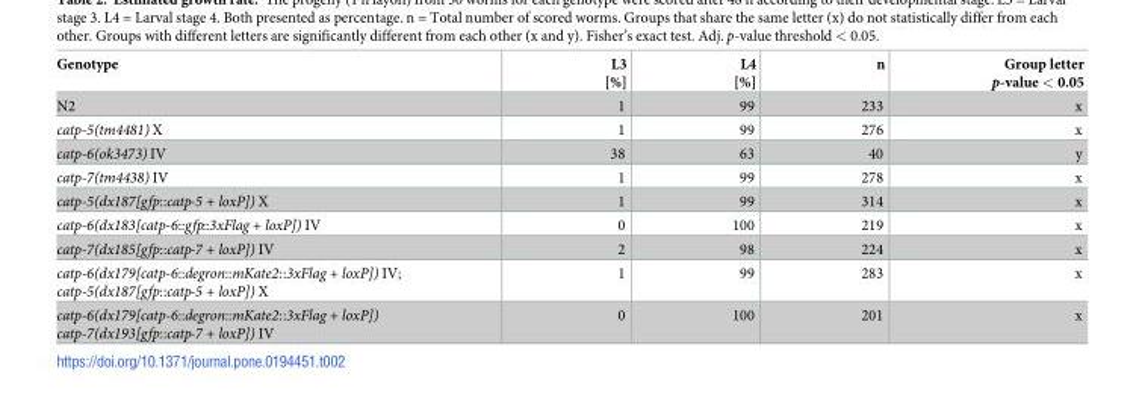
<table><thead><tr><td>Genotype</td><td>L3 [%]</td><td>L4 [%]</td><td>n</td><td>Group letter p-value &lt; 0.05</td></tr></thead><tbody><tr><td>N2</td><td>1</td><td>99</td><td>233</td><td>x</td></tr><tr><td>catp-5(tm4481) X</td><td>1</td><td>99</td><td>276</td><td>x</td></tr><tr><td>catp-6(ok3473) IV</td><td>38</td><td>63</td><td>40</td><td>y</td></tr><tr><td>catp-7(tm4438) IV</td><td>1</td><td>99</td><td>278</td><td>x</td></tr><tr><td>catp-5(dx187[gfp::catp-5 + loxP]) X</td><td>1</td><td>99</td><td>314</td><td>x</td></tr><tr><td>catp-6(dx183[catp-6::gfp::3xFlag + loxP]) IV</td><td>0</td><td>100</td><td>219</td><td>x</td></tr><tr><td>catp-7(dx185[gfp::catp-7 + loxP]) IV</td><td>2</td><td>98</td><td>224</td><td>x</td></tr><tr><td>catp-6(dx179[catp-6::degron::mKate2::3xFlag + loxP]) IV; catp-5(dx187[gfp::catp-5 + loxP]) X</td><td>1</td><td>99</td><td>283</td><td>x</td></tr><tr><td>catp-6(dx179[catp-6::degron::mKate2::3xFlag + loxP]) catp-7(dx193[gfp::catp-7 + loxP]) IV</td><td>0</td><td>100</td><td>201</td><td>x</td></tr></tbody></table>